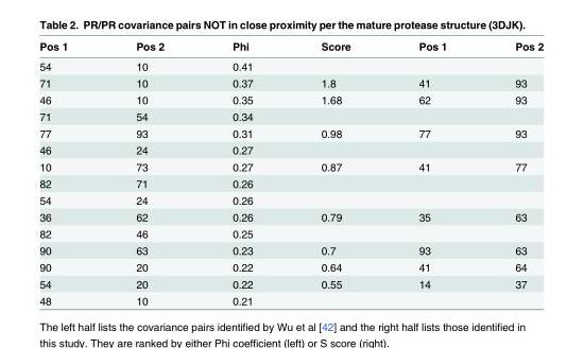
<table><thead><tr><td>Pos 1</td><td>Pos 2</td><td>Phi</td><td>Score</td><td>Pos 1</td><td>Pos 2</td></tr></thead><tbody><tr><td>54</td><td>10</td><td>0.41</td><td></td><td></td><td></td></tr><tr><td>71</td><td>10</td><td>0.37</td><td>1.8</td><td>41</td><td>93</td></tr><tr><td>46</td><td>10</td><td>0.35</td><td>1.68</td><td>62</td><td>93</td></tr><tr><td>71</td><td>54</td><td>0.34</td><td></td><td></td><td></td></tr><tr><td>77</td><td>93</td><td>0.31</td><td>0.98</td><td>77</td><td>93</td></tr><tr><td>46</td><td>24</td><td>0.27</td><td></td><td></td><td></td></tr><tr><td>10</td><td>73</td><td>0.27</td><td>0.87</td><td>41</td><td>77</td></tr><tr><td>82</td><td>71</td><td>0.26</td><td></td><td></td><td></td></tr><tr><td>54</td><td>24</td><td>0.26</td><td></td><td></td><td></td></tr><tr><td>36</td><td>62</td><td>0.26</td><td>0.79</td><td>35</td><td>63</td></tr><tr><td>82</td><td>46</td><td>0.25</td><td></td><td></td><td></td></tr><tr><td>90</td><td>63</td><td>0.23</td><td>0.7</td><td>93</td><td>63</td></tr><tr><td>90</td><td>20</td><td>0.22</td><td>0.64</td><td>41</td><td>64</td></tr><tr><td>54</td><td>20</td><td>0.22</td><td>0.55</td><td>14</td><td>37</td></tr><tr><td>48</td><td>10</td><td>0.21</td><td></td><td></td><td></td></tr></tbody></table>